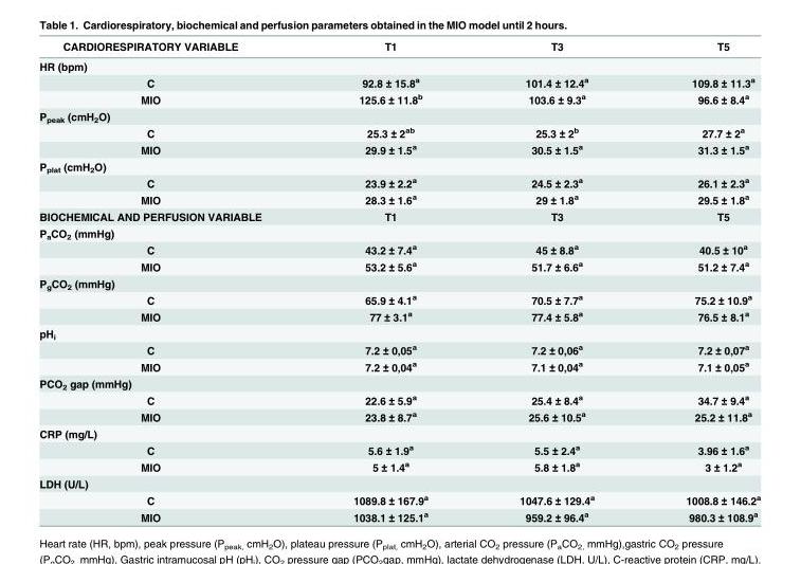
<table><thead><tr><td>CARDIORESPIRATORY VARIABLE</td><td>T1</td><td>T3</td><td>T5</td></tr></thead><tbody><tr><td colspan="4">HR (bpm)</td></tr><tr><td>C</td><td>92.8 ± 15.8<sup>a</sup></td><td>101.4 ± 12.4<sup>a</sup></td><td>109.8 ± 11.3<sup>a</sup></td></tr><tr><td>MIO</td><td>125.6 ± 11.8<sup>b</sup></td><td>103.6 ± 9.3<sup>a</sup></td><td>96.6 ± 8.4<sup>a</sup></td></tr><tr><td colspan="4">P<sub>peak</sub> (cmH<sub>2</sub>O)</td></tr><tr><td>C</td><td>25.3 ± 2<sup>ab</sup></td><td>25.3 ± 2<sup>b</sup></td><td>27.7 ± 2<sup>a</sup></td></tr><tr><td>MIO</td><td>29.9 ± 1.5<sup>a</sup></td><td>30.5 ± 1.5<sup>a</sup></td><td>31.3 ± 1.5<sup>a</sup></td></tr><tr><td colspan="4">P<sub>plat</sub> (cmH<sub>2</sub>O)</td></tr><tr><td>C</td><td>23.9 ± 2.2<sup>a</sup></td><td>24.5 ± 2.3<sup>a</sup></td><td>26.1 ± 2.3<sup>a</sup></td></tr><tr><td>MIO</td><td>28.3 ± 1.6<sup>a</sup></td><td>29 ± 1.8<sup>a</sup></td><td>29.5 ± 1.8<sup>a</sup></td></tr><tr><td>BIOCHEMICAL AND PERFUSION VARIABLE</td><td>T1</td><td>T3</td><td>T5</td></tr><tr><td colspan="4">P<sub>a</sub>CO<sub>2</sub> (mmHg)</td></tr><tr><td>C</td><td>43.2 ± 7.4<sup>a</sup></td><td>45 ± 8.8<sup>a</sup></td><td>40.5 ± 10<sup>a</sup></td></tr><tr><td>MIO</td><td>53.2 ± 5.6<sup>a</sup></td><td>51.7 ± 6.6<sup>a</sup></td><td>51.2 ± 7.4<sup>a</sup></td></tr><tr><td colspan="4">P<sub>g</sub>CO<sub>2</sub> (mmHg)</td></tr><tr><td>C</td><td>65.9 ± 4.1<sup>a</sup></td><td>70.5 ± 7.7<sup>a</sup></td><td>75.2 ± 10.9<sup>a</sup></td></tr><tr><td>MIO</td><td>77 ± 3.1<sup>a</sup></td><td>77.4 ± 5.8<sup>a</sup></td><td>76.5 ± 8.1<sup>a</sup></td></tr><tr><td colspan="4">pH<sub>i</sub></td></tr><tr><td>C</td><td>7.2 ± 0,05<sup>a</sup></td><td>7.2 ± 0,06<sup>a</sup></td><td>7.2 ± 0,07<sup>a</sup></td></tr><tr><td>MIO</td><td>7.2 ± 0,04<sup>a</sup></td><td>7.1 ± 0,04<sup>a</sup></td><td>7.1 ± 0,05<sup>a</sup></td></tr><tr><td colspan="4">PCO<sub>2</sub> gap (mmHg)</td></tr><tr><td>C</td><td>22.6 ± 5.9<sup>a</sup></td><td>25.4 ± 8.4<sup>a</sup></td><td>34.7 ± 9.4<sup>a</sup></td></tr><tr><td>MIO</td><td>23.8 ± 8.7<sup>a</sup></td><td>25.6 ± 10.5<sup>a</sup></td><td>25.2 ± 11.8<sup>a</sup></td></tr><tr><td colspan="4">CRP (mg/L)</td></tr><tr><td>C</td><td>5.6 ± 1.9<sup>a</sup></td><td>5.5 ± 2.4<sup>a</sup></td><td>3.96 ± 1.6<sup>a</sup></td></tr><tr><td>MIO</td><td>5 ± 1.4<sup>a</sup></td><td>5.8 ± 1.8<sup>a</sup></td><td>3 ± 1.2<sup>a</sup></td></tr><tr><td colspan="4">LDH (U/L)</td></tr><tr><td>C</td><td>1089.8 ± 167.9<sup>a</sup></td><td>1047.6 ± 129.4<sup>a</sup></td><td>1008.8 ± 146.2<sup>a</sup></td></tr><tr><td>MIO</td><td>1038.1 ± 125.1<sup>a</sup></td><td>959.2 ± 96.4<sup>a</sup></td><td>980.3 ± 108.9<sup>a</sup></td></tr></tbody></table>